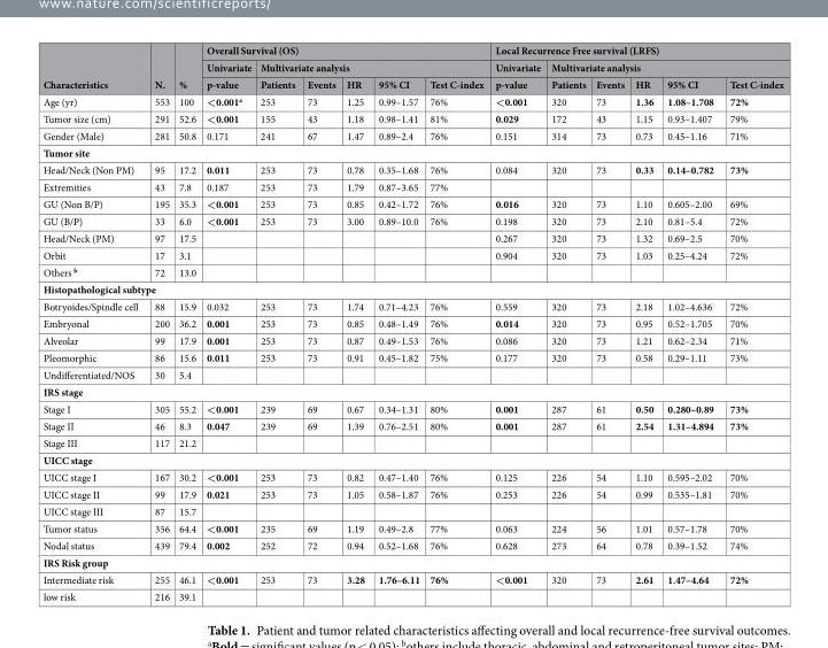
<table><thead><tr><td rowspan="3">Characteristics</td><td rowspan="3">N.</td><td rowspan="3">%</td><td colspan="6">Overall Survival (OS)</td><td colspan="6">Local Recurrence Free survival (LRFS)</td></tr><tr><td rowspan="2">Univariate p-value</td><td colspan="5">Multivariate analysis</td><td rowspan="2">Univariate p-value</td><td colspan="5">Multivariate analysis</td></tr><tr><td>Patients</td><td>Events</td><td>HR</td><td>95% CI</td><td>Test C-index</td><td>Patients</td><td>Events</td><td>HR</td><td>95% CI</td><td>Test C-index</td></tr></thead><tbody><tr><td>Age (yr)</td><td>553</td><td>100</td><td>&lt;0.001<sup>a</sup></td><td>253</td><td>73</td><td>1.25</td><td>0.99–1.57</td><td>76%</td><td>&lt;0.001</td><td>320</td><td>73</td><td>1.36</td><td>1.08–1.708</td><td>72%</td></tr><tr><td>Tumor size (cm)</td><td>291</td><td>52.6</td><td>&lt;0.001</td><td>155</td><td>43</td><td>1.18</td><td>0.98–1.41</td><td>81%</td><td>0.029</td><td>172</td><td>43</td><td>1.15</td><td>0.93–1.407</td><td>79%</td></tr><tr><td>Gender (Male)</td><td>281</td><td>50.8</td><td>0.171</td><td>241</td><td>67</td><td>1.47</td><td>0.89–2.4</td><td>76%</td><td>0.151</td><td>314</td><td>73</td><td>0.73</td><td>0.45–1.16</td><td>71%</td></tr><tr><td colspan="15">Tumor site</td></tr><tr><td>Head/Neck (Non PM)</td><td>95</td><td>17.2</td><td>0.011</td><td>253</td><td>73</td><td>0.78</td><td>0.35–1.68</td><td>76%</td><td>0.084</td><td>320</td><td>73</td><td>0.33</td><td>0.14–0.782</td><td>73%</td></tr><tr><td>Extremities</td><td>43</td><td>7.8</td><td>0.187</td><td>253</td><td>73</td><td>1.79</td><td>0.87–3.65</td><td>77%</td><td></td><td></td><td></td><td></td><td></td><td></td></tr><tr><td>GU (Non B/P)</td><td>195</td><td>35.3</td><td>&lt;0.001</td><td>253</td><td>73</td><td>0.85</td><td>0.42–1.72</td><td>76%</td><td>0.016</td><td>320</td><td>73</td><td>1.10</td><td>0.605–2.00</td><td>69%</td></tr><tr><td>GU (B/P)</td><td>33</td><td>6.0</td><td>&lt;0.001</td><td>253</td><td>73</td><td>3.00</td><td>0.89–10.0</td><td>76%</td><td>0.198</td><td>320</td><td>73</td><td>2.10</td><td>0.81–5.4</td><td>72%</td></tr><tr><td>Head/Neck (PM)</td><td>97</td><td>17.5</td><td></td><td></td><td></td><td></td><td></td><td></td><td>0.267</td><td>320</td><td>73</td><td>1.32</td><td>0.69–2.5</td><td>70%</td></tr><tr><td>Orbit</td><td>17</td><td>3.1</td><td></td><td></td><td></td><td></td><td></td><td></td><td>0.904</td><td>320</td><td>73</td><td>1.03</td><td>0.25–4.24</td><td>72%</td></tr><tr><td>Others <sup>b</sup></td><td>72</td><td>13.0</td><td></td><td></td><td></td><td></td><td></td><td></td><td></td><td></td><td></td><td></td><td></td><td></td></tr><tr><td colspan="15">Histopathological subtype</td></tr><tr><td>Botryoides/Spindle cell</td><td>88</td><td>15.9</td><td>0.032</td><td>253</td><td>73</td><td>1.74</td><td>0.71–4.23</td><td>76%</td><td>0.559</td><td>320</td><td>73</td><td>2.18</td><td>1.02–4.636</td><td>72%</td></tr><tr><td>Embryonal</td><td>200</td><td>36.2</td><td>0.001</td><td>253</td><td>73</td><td>0.85</td><td>0.48–1.49</td><td>76%</td><td>0.014</td><td>320</td><td>73</td><td>0.95</td><td>0.52–1.705</td><td>70%</td></tr><tr><td>Alveolar</td><td>99</td><td>17.9</td><td>0.001</td><td>253</td><td>73</td><td>0.87</td><td>0.49–1.53</td><td>76%</td><td>0.086</td><td>320</td><td>73</td><td>1.21</td><td>0.62–2.34</td><td>71%</td></tr><tr><td>Pleomorphic</td><td>86</td><td>15.6</td><td>0.011</td><td>253</td><td>73</td><td>0.91</td><td>0.45–1.82</td><td>75%</td><td>0.177</td><td>320</td><td>73</td><td>0.58</td><td>0.29–1.11</td><td>73%</td></tr><tr><td>Undifferentiated/NOS</td><td>30</td><td>5.4</td><td></td><td></td><td></td><td></td><td></td><td></td><td></td><td></td><td></td><td></td><td></td><td></td></tr><tr><td colspan="15">IRS stage</td></tr><tr><td>Stage I</td><td>305</td><td>55.2</td><td>&lt;0.001</td><td>239</td><td>69</td><td>0.67</td><td>0.34–1.31</td><td>80%</td><td>0.001</td><td>287</td><td>61</td><td>0.50</td><td>0.280–0.89</td><td>73%</td></tr><tr><td>Stage II</td><td>46</td><td>8.3</td><td>0.047</td><td>239</td><td>69</td><td>1.39</td><td>0.76–2.51</td><td>80%</td><td>0.001</td><td>287</td><td>61</td><td>2.54</td><td>1.31–4.894</td><td>73%</td></tr><tr><td>Stage III</td><td>117</td><td>21.2</td><td></td><td></td><td></td><td></td><td></td><td></td><td></td><td></td><td></td><td></td><td></td><td></td></tr><tr><td colspan="15">UICC stage</td></tr><tr><td>UICC stage I</td><td>167</td><td>30.2</td><td>&lt;0.001</td><td>253</td><td>73</td><td>0.82</td><td>0.47–1.40</td><td>76%</td><td>0.125</td><td>226</td><td>54</td><td>1.10</td><td>0.595–2.02</td><td>70%</td></tr><tr><td>UICC stage II</td><td>99</td><td>17.9</td><td>0.021</td><td>253</td><td>73</td><td>1.05</td><td>0.58–1.87</td><td>76%</td><td>0.253</td><td>226</td><td>54</td><td>0.99</td><td>0.535–1.81</td><td>70%</td></tr><tr><td>UICC stage III</td><td>87</td><td>15.7</td><td></td><td></td><td></td><td></td><td></td><td></td><td></td><td></td><td></td><td></td><td></td><td></td></tr><tr><td>Tumor status</td><td>356</td><td>64.4</td><td>&lt;0.001</td><td>235</td><td>69</td><td>1.19</td><td>0.49–2.8</td><td>77%</td><td>0.063</td><td>224</td><td>56</td><td>1.01</td><td>0.57–1.78</td><td>70%</td></tr><tr><td>Nodal status</td><td>439</td><td>79.4</td><td>0.002</td><td>252</td><td>72</td><td>0.94</td><td>0.52–1.68</td><td>76%</td><td>0.628</td><td>273</td><td>64</td><td>0.78</td><td>0.39–1.52</td><td>74%</td></tr><tr><td colspan="15">IRS Risk group</td></tr><tr><td>Intermediate risk</td><td>255</td><td>46.1</td><td>&lt;0.001</td><td>253</td><td>73</td><td>3.28</td><td>1.76–6.11</td><td>76%</td><td>&lt;0.001</td><td>320</td><td>73</td><td>2.61</td><td>1.47–4.64</td><td>72%</td></tr><tr><td>low risk</td><td>216</td><td>39.1</td><td></td><td></td><td></td><td></td><td></td><td></td><td></td><td></td><td></td><td></td><td></td><td></td></tr></tbody></table>